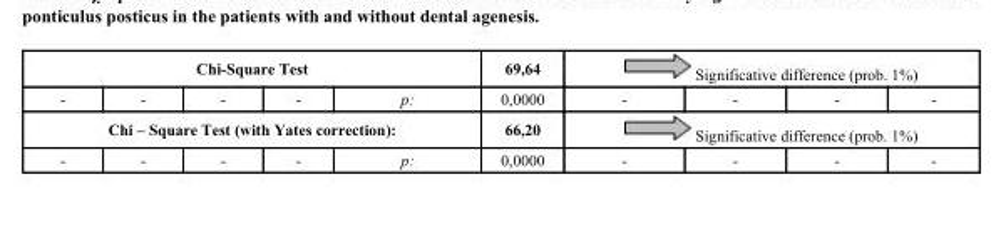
<table><tbody><tr><td colspan="5">Chi-Square Test</td><td>69,64</td><td colspan="4">Significative difference (prob. 1%)</td></tr><tr><td>-</td><td>-</td><td>-</td><td>-</td><td>p:</td><td>0,0000</td><td>-</td><td>-</td><td>-</td><td>-</td></tr><tr><td colspan="5">Chi – Square Test (with Yates correction):</td><td>66,20</td><td colspan="4">Significative difference (prob. 1%)</td></tr><tr><td>-</td><td>-</td><td>-</td><td>-</td><td>p:</td><td>0,0000</td><td>-</td><td>-</td><td>-</td><td>-</td></tr></tbody></table>